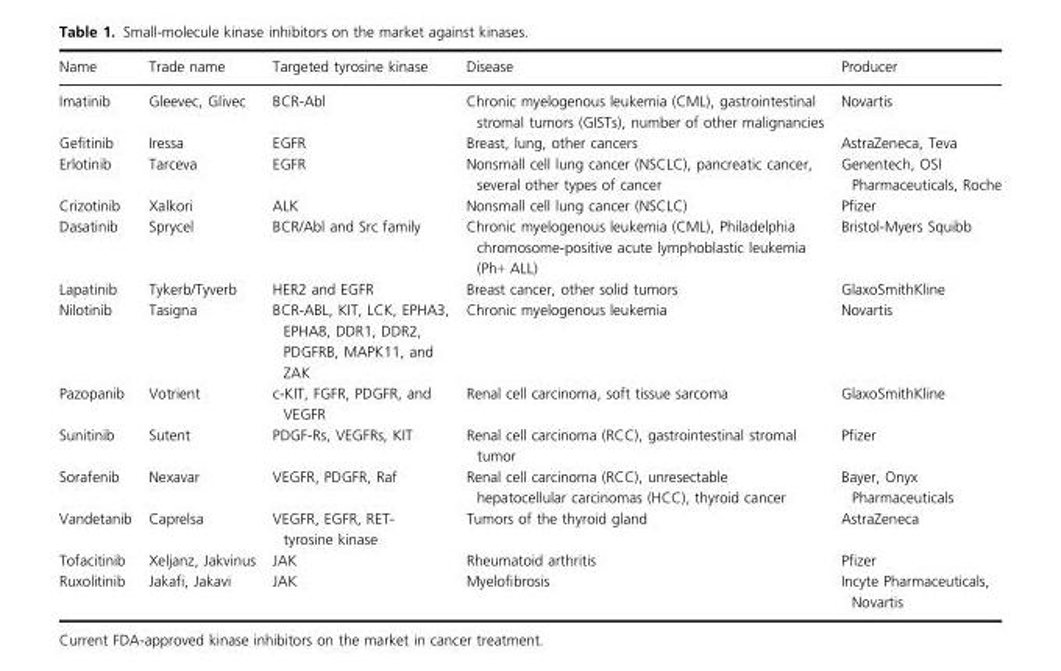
<table><thead><tr><td>Name</td><td>Trade name</td><td>Targeted tyrosine kinase</td><td>Disease</td><td>Producer</td></tr></thead><tbody><tr><td>Imatinib</td><td>Gleevec, Glivec</td><td>BCR-Abl</td><td>Chronic myelogenous leukemia (CML), gastrointestinal stromal tumors (GISTs), number of other malignancies</td><td>Novartis</td></tr><tr><td>Gefitinib</td><td>Iressa</td><td>EGFR</td><td>Breast, lung, other cancers</td><td>AstraZeneca, Teva</td></tr><tr><td>Erlotinib</td><td>Tarceva</td><td>EGFR</td><td>Nonsmall cell lung cancer (NSCLC), pancreatic cancer, several other types of cancer</td><td>Genentech, OSI Pharmaceuticals, Roche</td></tr><tr><td>Crizotinib</td><td>Xalkori</td><td>ALK</td><td>Nonsmall cell lung cancer (NSCLC)</td><td>Pfizer</td></tr><tr><td>Dasatinib</td><td>Sprycel</td><td>BCR/Abl and Src family</td><td>Chronic myelogenous leukemia (CML), Philadelphia chromosome-positive acute lymphoblastic leukemia (Ph+ ALL)</td><td>Bristol-Myers Squibb</td></tr><tr><td>Lapatinib</td><td>Tykerb/Tyverb</td><td>HER2 and EGFR</td><td>Breast cancer, other solid tumors</td><td>GlaxoSmithKline</td></tr><tr><td>Nilotinib</td><td>Tasigna</td><td>BCR-ABL, KIT, LCK, EPHA3, EPHA8, DDR1, DDR2, PDGFRB, MAPK11, and ZAK</td><td>Chronic myelogenous leukemia</td><td>Novartis</td></tr><tr><td>Pazopanib</td><td>Votrient</td><td>c-KIT, FGFR, PDGFR, and VEGFR</td><td>Renal cell carcinoma, soft tissue sarcoma</td><td>GlaxoSmithKline</td></tr><tr><td>Sunitinib</td><td>Sutent</td><td>PDGF-Rs, VEGFRs, KIT</td><td>Renal cell carcinoma (RCC), gastrointestinal stromal tumor</td><td>Pfizer</td></tr><tr><td>Sorafenib</td><td>Nexavar</td><td>VEGFR, PDGFR, Raf</td><td>Renal cell carcinoma (RCC), unresectable hepatocellular carcinomas (HCC), thyroid cancer</td><td>Bayer, Onyx Pharmaceuticals</td></tr><tr><td>Vandetanib</td><td>Caprelsa</td><td>VEGFR, EGFR, RET- tyrosine kinase</td><td>Tumors of the thyroid gland</td><td>AstraZeneca</td></tr><tr><td>Tofacitinib</td><td>Xeljanz, Jakvinus</td><td>JAK</td><td>Rheumatoid arthritis</td><td>Pfizer</td></tr><tr><td>Ruxolitinib</td><td>Jakafi, Jakavi</td><td>JAK</td><td>Myelofibrosis</td><td>Incyte Pharmaceuticals, Novartis</td></tr></tbody></table>